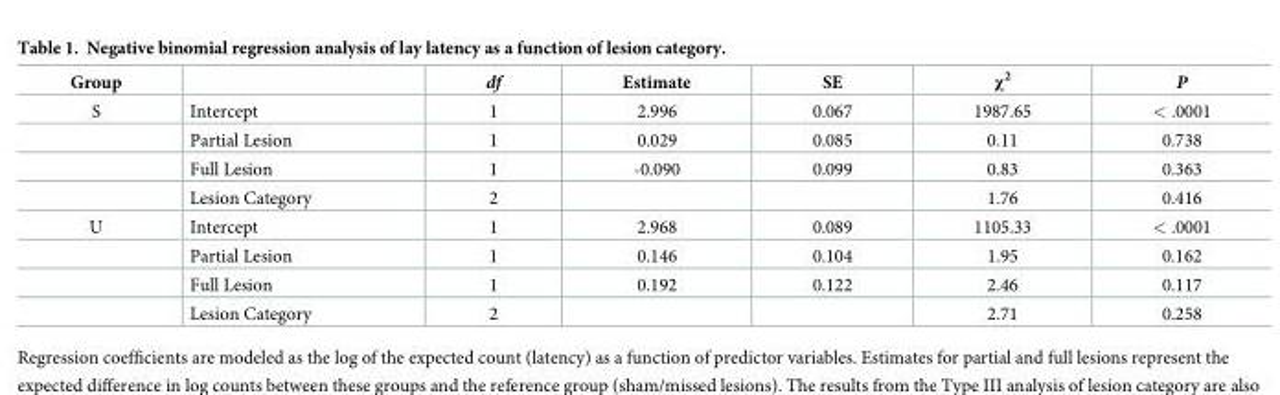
<table><thead><tr><td>Group</td><td></td><td>df</td><td>Estimate</td><td>SE</td><td>χ<sup>2</sup></td><td>P</td></tr></thead><tbody><tr><td rowspan="4">S</td><td>Intercept</td><td>1</td><td>2.996</td><td>0.067</td><td>1987.65</td><td>&lt; .0001</td></tr><tr><td>Partial Lesion</td><td>1</td><td>0.029</td><td>0.085</td><td>0.11</td><td>0.738</td></tr><tr><td>Full Lesion</td><td>1</td><td>-0.090</td><td>0.099</td><td>0.83</td><td>0.363</td></tr><tr><td>Lesion Category</td><td>2</td><td></td><td></td><td>1.76</td><td>0.416</td></tr><tr><td rowspan="4">U</td><td>Intercept</td><td>1</td><td>2.968</td><td>0.089</td><td>1105.33</td><td>&lt; .0001</td></tr><tr><td>Partial Lesion</td><td>1</td><td>0.146</td><td>0.104</td><td>1.95</td><td>0.162</td></tr><tr><td>Full Lesion</td><td>1</td><td>0.192</td><td>0.122</td><td>2.46</td><td>0.117</td></tr><tr><td>Lesion Category</td><td>2</td><td></td><td></td><td>2.71</td><td>0.258</td></tr></tbody></table>